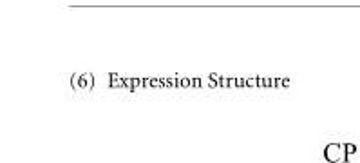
<table><tbody><tr><td>(6)</td><td>Expression Structure</td></tr></tbody></table>